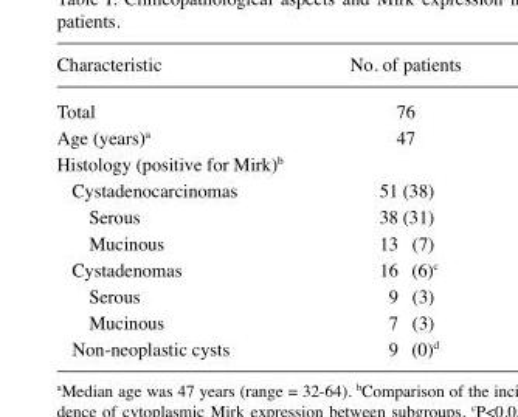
<table><thead><tr><td>Characteristic</td><td>No. of patients</td></tr></thead><tbody><tr><td>Total</td><td>76</td></tr><tr><td>Age (years)<sup>a</sup></td><td>47</td></tr><tr><td colspan="2">Histology (positive for Mirk)<sup>b</sup></td></tr><tr><td>Cystadenocarcinomas</td><td>51 (38)</td></tr><tr><td>Serous</td><td>38 (31)</td></tr><tr><td>Mucinous</td><td>13 (7)</td></tr><tr><td>Cystadenomas</td><td>16 (6)<sup>c</sup></td></tr><tr><td>Serous</td><td>9 (3)</td></tr><tr><td>Mucinous</td><td>7 (3)</td></tr><tr><td>Non-neoplastic cysts</td><td>9 (0)<sup>d</sup></td></tr></tbody></table>